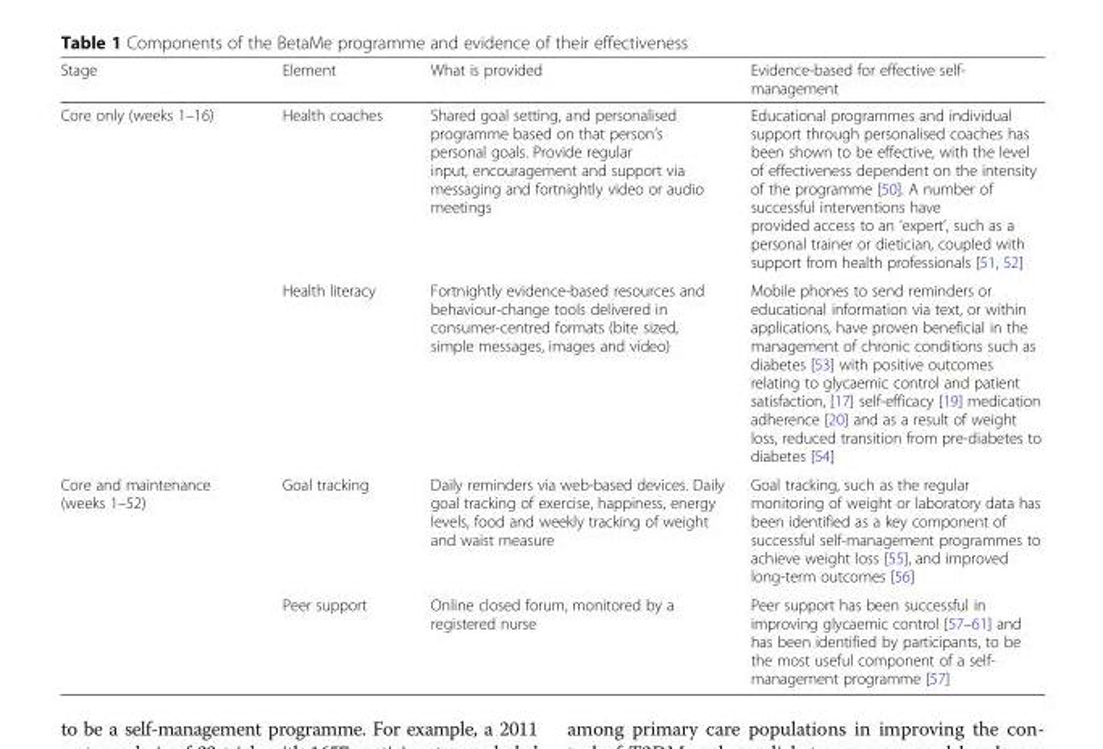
<table><thead><tr><td>Stage</td><td>Element</td><td>What is provided</td><td>Evidence-based for effective self- management</td></tr></thead><tbody><tr><td rowspan="2">Core only (weeks 1–16)</td><td>Health coaches</td><td>Shared goal setting, and personalised programme based on that person’s personal goals. Provide regular input, encouragement and support via messaging and fortnightly video or audio meetings</td><td>Educational programmes and individual support through personalised coaches has been shown to be effective, with the level of effectiveness dependent on the intensity of the programme [50]. A number of successful interventions have provided access to an ‘expert’, such as a personal trainer or dietician, coupled with support from health professionals [51, 52]</td></tr><tr><td>Health literacy</td><td>Fortnightly evidence-based resources and behaviour-change tools delivered in consumer-centred formats (bite sized, simple messages, images and video)</td><td>Mobile phones to send reminders or educational information via text, or within applications, have proven beneficial in the management of chronic conditions such as diabetes [53] with positive outcomes relating to glycaemic control and patient satisfaction, [17] self-efficacy [19] medication adherence [20] and as a result of weight loss, reduced transition from pre-diabetes to diabetes [54]</td></tr><tr><td rowspan="2">Core and maintenance (weeks 1–52)</td><td>Goal tracking</td><td>Daily reminders via web-based devices. Daily goal tracking of exercise, happiness, energy levels, food and weekly tracking of weight and waist measure</td><td>Goal tracking, such as the regular monitoring of weight or laboratory data has been identified as a key component of successful self-management programmes to achieve weight loss [55], and improved long-term outcomes [56]</td></tr><tr><td>Peer support</td><td>Online closed forum, monitored by a registered nurse</td><td>Peer support has been successful in improving glycaemic control [57–61] and has been identified by participants, to be the most useful component of a self- management programme [57]</td></tr></tbody></table>